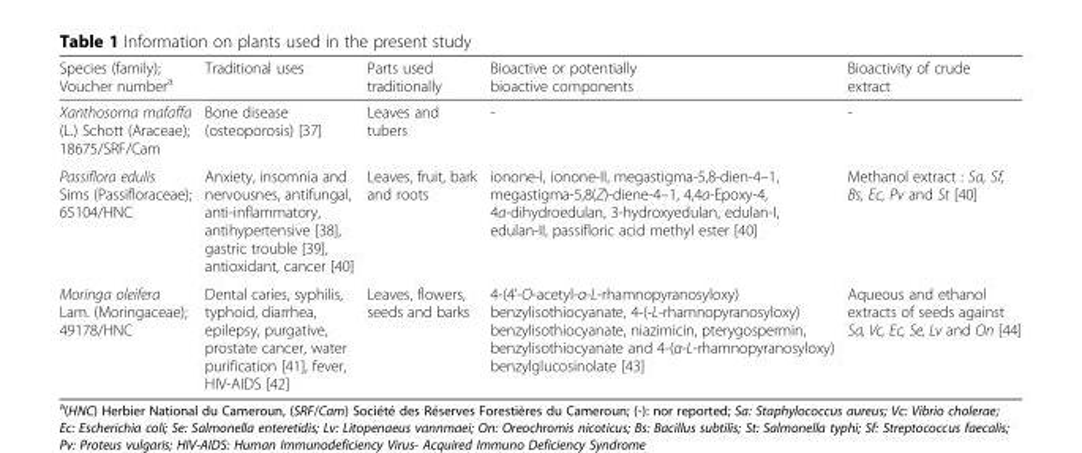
<table><thead><tr><td>Species (family); Voucher number<sup>a</sup></td><td>Traditional uses</td><td>Parts used traditionally</td><td>Bioactive or potentially bioactive components</td><td>Bioactivity of crude extract</td></tr></thead><tbody><tr><td>Xanthosoma mafaffa (L.) Schott (Araceae); 18675/SRF/Cam</td><td>Bone disease (osteoporosis) [37]</td><td>Leaves and tubers</td><td>-</td><td>-</td></tr><tr><td>Passiflora edulis Sims (Passifloraceae); 65104/HNC</td><td>Anxiety, insomnia and nervousnes, antifungal, anti-inflammatory, antihypertensive [38], gastric trouble [39], antioxidant, cancer [40]</td><td>Leaves, fruit, bark and roots</td><td>ionone-I, ionone-II, megastigma-5,8-dien-4–1, megastigma-5,8(Z)-diene-4–1, 4,4a-Epoxy-4, 4a-dihydroedulan, 3-hydroxyedulan, edulan-I, edulan-II, passifloric acid methyl ester [40]</td><td>Methanol extract : Sa, Sf, Bs, Ec, Pv and St [40]</td></tr><tr><td>Moringa oleifera Lam. (Moringaceae); 49178/HNC</td><td>Dental caries, syphilis, typhoid, diarrhea, epilepsy, purgative, prostate cancer, water purification [41], fever, HIV-AIDS [42]</td><td>Leaves, flowers, seeds and barks</td><td>4-(4’-O-acetyl-α-L-rhamnopyranosyloxy) benzylisothiocyanate, 4-(-L-rhamnopyranosyloxy) benzylisothiocyanate, niazimicin, pterygospermin, benzylisothiocyanate and 4-(α-L-rhamnopyranosyloxy) benzylglucosinolate [43]</td><td>Aqueous and ethanol extracts of seeds against Sa, Vc, Ec, Se, Lv and On [44]</td></tr></tbody></table>